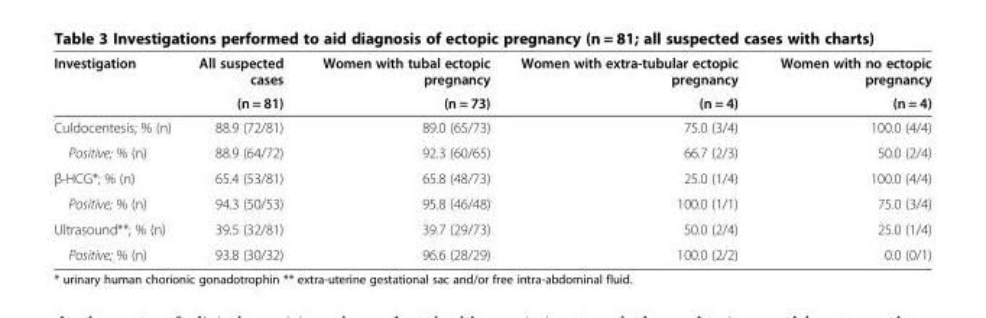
<table><thead><tr><td rowspan="2">Investigation</td><td rowspan="2">All suspected cases (n = 81)</td><td rowspan="2">Women with tubal ectopic pregnancy (n = 73)</td><td rowspan="2">Women with extra-tubular ectopic pregnancy (n = 4)</td><td rowspan="2">Women with no ectopic pregnancy (n = 4)</td></tr><tr></tr></thead><tbody><tr><td>Culdocentesis; % (n)</td><td>88.9 (72/81)</td><td>89.0 (65/73)</td><td>75.0 (3/4)</td><td>100.0 (4/4)</td></tr><tr><td>Positive; % (n)</td><td>88.9 (64/72)</td><td>92.3 (60/65)</td><td>66.7 (2/3)</td><td>50.0 (2/4)</td></tr><tr><td>β-HCG*; % (n)</td><td>65.4 (53/81)</td><td>65.8 (48/73)</td><td>25.0 (1/4)</td><td>100.0 (4/4)</td></tr><tr><td>Positive; % (n)</td><td>94.3 (50/53)</td><td>95.8 (46/48)</td><td>100.0 (1/1)</td><td>75.0 (3/4)</td></tr><tr><td>Ultrasound**; % (n)</td><td>39.5 (32/81)</td><td>39.7 (29/73)</td><td>50.0 (2/4)</td><td>25.0 (1/4)</td></tr><tr><td>Positive; % (n)</td><td>93.8 (30/32)</td><td>96.6 (28/29)</td><td>100.0 (2/2)</td><td>0.0 (0/1)</td></tr></tbody></table>